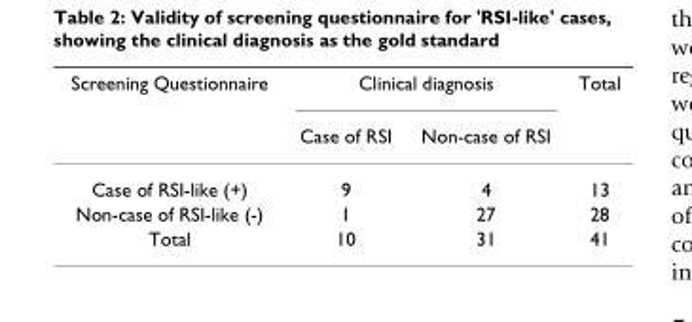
<table><thead><tr><td rowspan="2">Screening Questionnaire</td><td colspan="2">Clinical diagnosis</td><td rowspan="2">Total</td></tr><tr><td>Case of RSI</td><td>Non-case of RSI</td></tr></thead><tbody><tr><td>Case of RSI-like (+)</td><td>9</td><td>4</td><td>13</td></tr><tr><td>Non-case of RSI-like (-)</td><td>1</td><td>27</td><td>28</td></tr><tr><td>Total</td><td>10</td><td>31</td><td>41</td></tr></tbody></table>